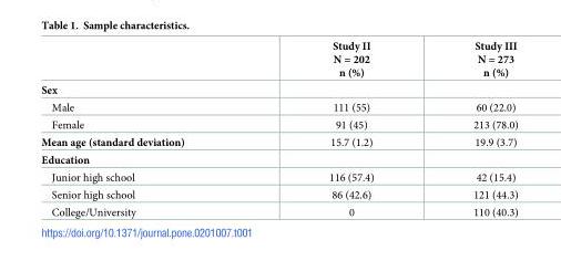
<table><thead><tr><td></td><td>Study II N = 202 n (%)</td><td>Study III N = 273 n (%)</td></tr></thead><tbody><tr><td colspan="3">Sex</td></tr><tr><td>Male</td><td>111 (55)</td><td>60 (22.0)</td></tr><tr><td>Female</td><td>91 (45)</td><td>213 (78.0)</td></tr><tr><td>Mean age (standard deviation)</td><td>15.7 (1.2)</td><td>19.9 (3.7)</td></tr><tr><td colspan="3">Education</td></tr><tr><td>Junior high school</td><td>116 (57.4)</td><td>42 (15.4)</td></tr><tr><td>Senior high school</td><td>86 (42.6)</td><td>121 (44.3)</td></tr><tr><td>College/University</td><td>0</td><td>110 (40.3)</td></tr></tbody></table>